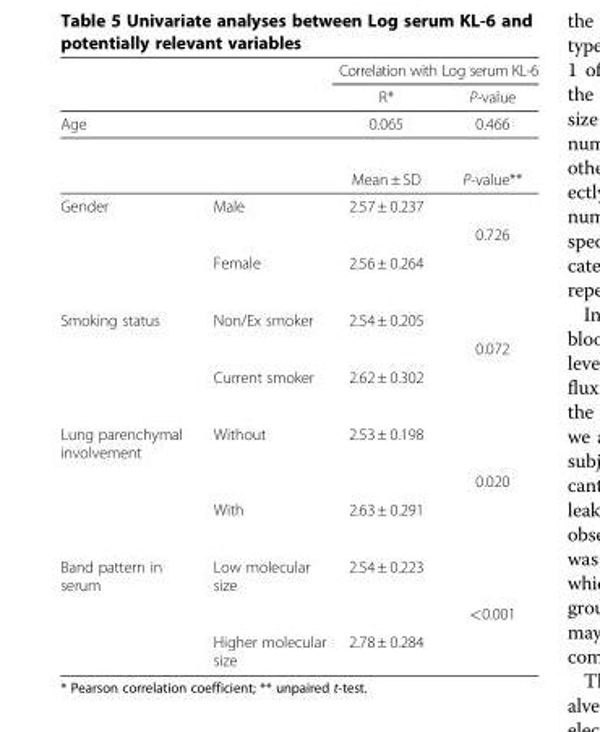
<table><thead><tr><td rowspan="2"></td><td rowspan="2"></td><td colspan="2">Correlation with Log serum KL-6</td></tr><tr><td>R*</td><td>P-value</td></tr></thead><tbody><tr><td rowspan="2">Age</td><td></td><td>0.065</td><td>0.466</td></tr><tr><td></td><td>Mean ± SD</td><td>P-value**</td></tr><tr><td rowspan="3">Gender</td><td>Male</td><td>2.57 ± 0.237</td><td></td></tr><tr><td></td><td></td><td>0.726</td></tr><tr><td>Female</td><td>2.56 ± 0.264</td><td></td></tr><tr><td rowspan="3">Smoking status</td><td>Non/Ex smoker</td><td>2.54 ± 0.205</td><td></td></tr><tr><td></td><td></td><td>0.072</td></tr><tr><td>Current smoker</td><td>2.62 ± 0.302</td><td></td></tr><tr><td rowspan="3">Lung parenchymal involvement</td><td>Without</td><td>2.53 ± 0.198</td><td></td></tr><tr><td></td><td></td><td>0.020</td></tr><tr><td>With</td><td>2.63 ± 0.291</td><td></td></tr><tr><td rowspan="3">Band pattern in serum</td><td>Low molecular size</td><td>2.54 ± 0.223</td><td></td></tr><tr><td></td><td></td><td>&lt;0.001</td></tr><tr><td>Higher molecular size</td><td>2.78 ± 0.284</td><td></td></tr></tbody></table>